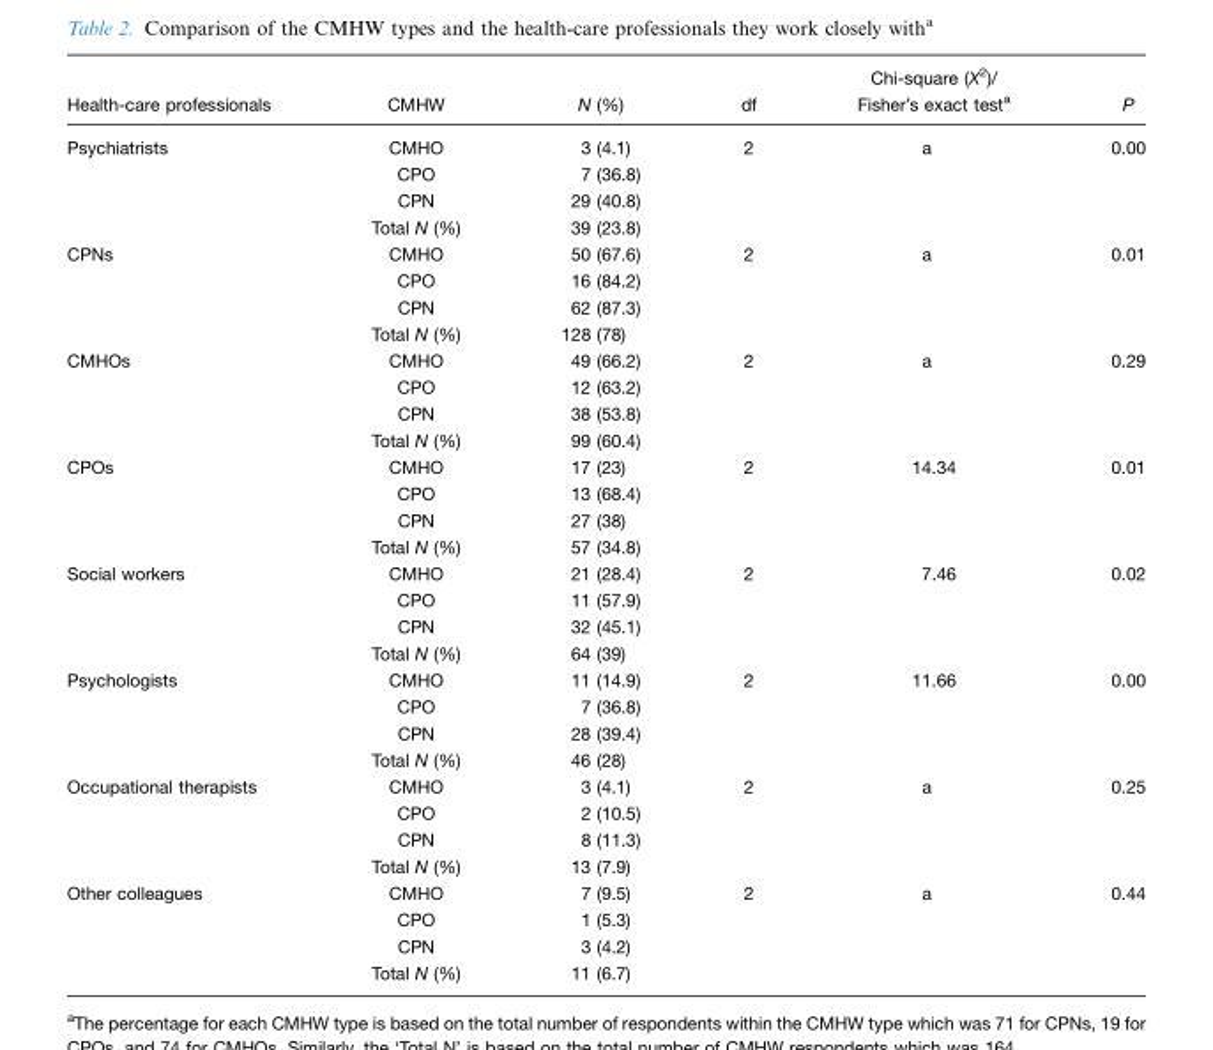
<table><thead><tr><td>Health-care professionals</td><td>CMHW</td><td>N (%)</td><td>df</td><td>Chi-square (X<sup>2</sup>)/ Fisher’s exact test<sup>a</sup></td><td>P</td></tr></thead><tbody><tr><td rowspan="4">Psychiatrists</td><td>CMHO</td><td>3 (4.1)</td><td>2</td><td>a</td><td>0.00</td></tr><tr><td>CPO</td><td>7 (36.8)</td><td></td><td></td><td></td></tr><tr><td>CPN</td><td>29 (40.8)</td><td></td><td></td><td></td></tr><tr><td>Total N (%)</td><td>39 (23.8)</td><td></td><td></td><td></td></tr><tr><td rowspan="4">CPNs</td><td>CMHO</td><td>50 (67.6)</td><td>2</td><td>a</td><td>0.01</td></tr><tr><td>CPO</td><td>16 (84.2)</td><td></td><td></td><td></td></tr><tr><td>CPN</td><td>62 (87.3)</td><td></td><td></td><td></td></tr><tr><td>Total N (%)</td><td>128 (78)</td><td></td><td></td><td></td></tr><tr><td rowspan="4">CMHOs</td><td>CMHO</td><td>49 (66.2)</td><td>2</td><td>a</td><td>0.29</td></tr><tr><td>CPO</td><td>12 (63.2)</td><td></td><td></td><td></td></tr><tr><td>CPN</td><td>38 (53.8)</td><td></td><td></td><td></td></tr><tr><td>Total N (%)</td><td>99 (60.4)</td><td></td><td></td><td></td></tr><tr><td rowspan="4">CPOs</td><td>CMHO</td><td>17 (23)</td><td>2</td><td>14.34</td><td>0.01</td></tr><tr><td>CPO</td><td>13 (68.4)</td><td></td><td></td><td></td></tr><tr><td>CPN</td><td>27 (38)</td><td></td><td></td><td></td></tr><tr><td>Total N (%)</td><td>57 (34.8)</td><td></td><td></td><td></td></tr><tr><td rowspan="4">Social workers</td><td>CMHO</td><td>21 (28.4)</td><td>2</td><td>7.46</td><td>0.02</td></tr><tr><td>CPO</td><td>11 (57.9)</td><td></td><td></td><td></td></tr><tr><td>CPN</td><td>32 (45.1)</td><td></td><td></td><td></td></tr><tr><td>Total N (%)</td><td>64 (39)</td><td></td><td></td><td></td></tr><tr><td rowspan="4">Psychologists</td><td>CMHO</td><td>11 (14.9)</td><td>2</td><td>11.66</td><td>0.00</td></tr><tr><td>CPO</td><td>7 (36.8)</td><td></td><td></td><td></td></tr><tr><td>CPN</td><td>28 (39.4)</td><td></td><td></td><td></td></tr><tr><td>Total N (%)</td><td>46 (28)</td><td></td><td></td><td></td></tr><tr><td rowspan="4">Occupational therapists</td><td>CMHO</td><td>3 (4.1)</td><td>2</td><td>a</td><td>0.25</td></tr><tr><td>CPO</td><td>2 (10.5)</td><td></td><td></td><td></td></tr><tr><td>CPN</td><td>8 (11.3)</td><td></td><td></td><td></td></tr><tr><td>Total N (%)</td><td>13 (7.9)</td><td></td><td></td><td></td></tr><tr><td rowspan="4">Other colleagues</td><td>CMHO</td><td>7 (9.5)</td><td>2</td><td>a</td><td>0.44</td></tr><tr><td>CPO</td><td>1 (5.3)</td><td></td><td></td><td></td></tr><tr><td>CPN</td><td>3 (4.2)</td><td></td><td></td><td></td></tr><tr><td>Total N (%)</td><td>11 (6.7)</td><td></td><td></td><td></td></tr></tbody></table>